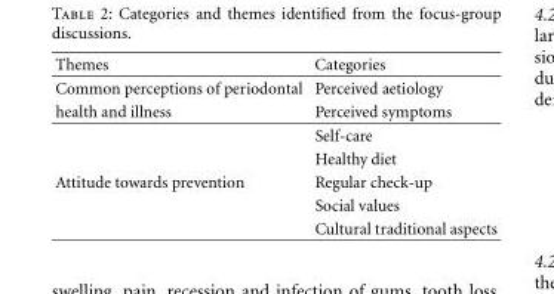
<table><thead><tr><td>Themes</td><td>Categories</td></tr></thead><tbody><tr><td>Common perceptions of periodontal</td><td>Perceived aetiology</td></tr><tr><td rowspan="3">health and illness</td><td>Perceived symptoms</td></tr><tr><td>Self-care</td></tr><tr><td>Healthy diet</td></tr><tr><td rowspan="3">Attitude towards prevention</td><td>Regular check-up</td></tr><tr><td>Social values</td></tr><tr><td>Cultural traditional aspects</td></tr></tbody></table>